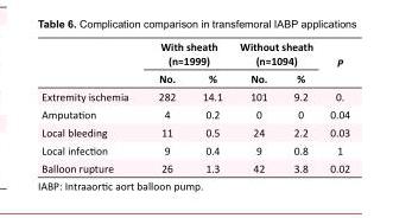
<table><thead><tr><td rowspan="2"></td><td colspan="2">With sheath (n=1999)</td><td colspan="2">Without sheath (n=1094)</td><td rowspan="2">P</td></tr><tr><td>No.</td><td>%</td><td>No.</td><td>%</td></tr></thead><tbody><tr><td>Extremity ischemia</td><td>282</td><td>14.1</td><td>101</td><td>9.2</td><td>0.</td></tr><tr><td>Amputation</td><td>4</td><td>0.2</td><td>0</td><td>0</td><td>0.04</td></tr><tr><td>Local bleeding</td><td>11</td><td>0.5</td><td>24</td><td>2.2</td><td>0.03</td></tr><tr><td>Local infection</td><td>9</td><td>0.4</td><td>9</td><td>0.8</td><td>1</td></tr><tr><td>Balloon rupture</td><td>26</td><td>1.3</td><td>42</td><td>3.8</td><td>0.02</td></tr></tbody></table>